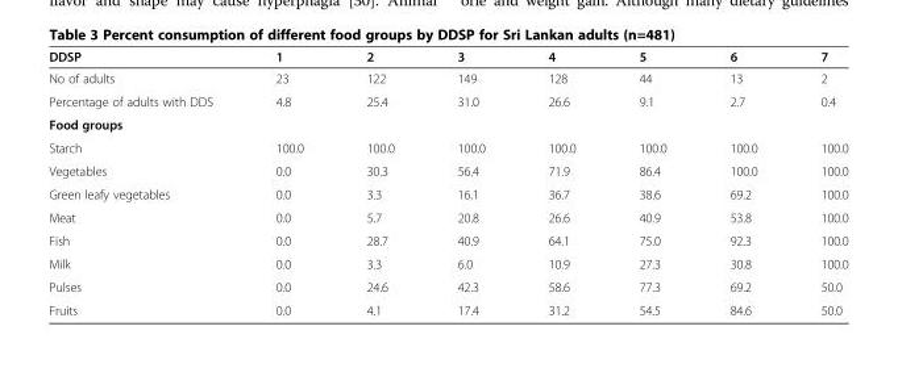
<table><thead><tr><td>DDSP</td><td>1</td><td>2</td><td>3</td><td>4</td><td>5</td><td>6</td><td>7</td></tr></thead><tbody><tr><td>No of adults</td><td>23</td><td>122</td><td>149</td><td>128</td><td>44</td><td>13</td><td>2</td></tr><tr><td>Percentage of adults with DDS</td><td>4.8</td><td>25.4</td><td>31.0</td><td>26.6</td><td>9.1</td><td>2.7</td><td>0.4</td></tr><tr><td colspan="8">Food groups</td></tr><tr><td>Starch</td><td>100.0</td><td>100.0</td><td>100.0</td><td>100.0</td><td>100.0</td><td>100.0</td><td>100.0</td></tr><tr><td>Vegetables</td><td>0.0</td><td>30.3</td><td>56.4</td><td>71.9</td><td>86.4</td><td>100.0</td><td>100.0</td></tr><tr><td>Green leafy vegetables</td><td>0.0</td><td>3.3</td><td>16.1</td><td>36.7</td><td>38.6</td><td>69.2</td><td>100.0</td></tr><tr><td>Meat</td><td>0.0</td><td>5.7</td><td>20.8</td><td>26.6</td><td>40.9</td><td>53.8</td><td>100.0</td></tr><tr><td>Fish</td><td>0.0</td><td>28.7</td><td>40.9</td><td>64.1</td><td>75.0</td><td>92.3</td><td>100.0</td></tr><tr><td>Milk</td><td>0.0</td><td>3.3</td><td>6.0</td><td>10.9</td><td>27.3</td><td>30.8</td><td>100.0</td></tr><tr><td>Pulses</td><td>0.0</td><td>24.6</td><td>42.3</td><td>58.6</td><td>77.3</td><td>69.2</td><td>50.0</td></tr><tr><td>Fruits</td><td>0.0</td><td>4.1</td><td>17.4</td><td>31.2</td><td>54.5</td><td>84.6</td><td>50.0</td></tr></tbody></table>